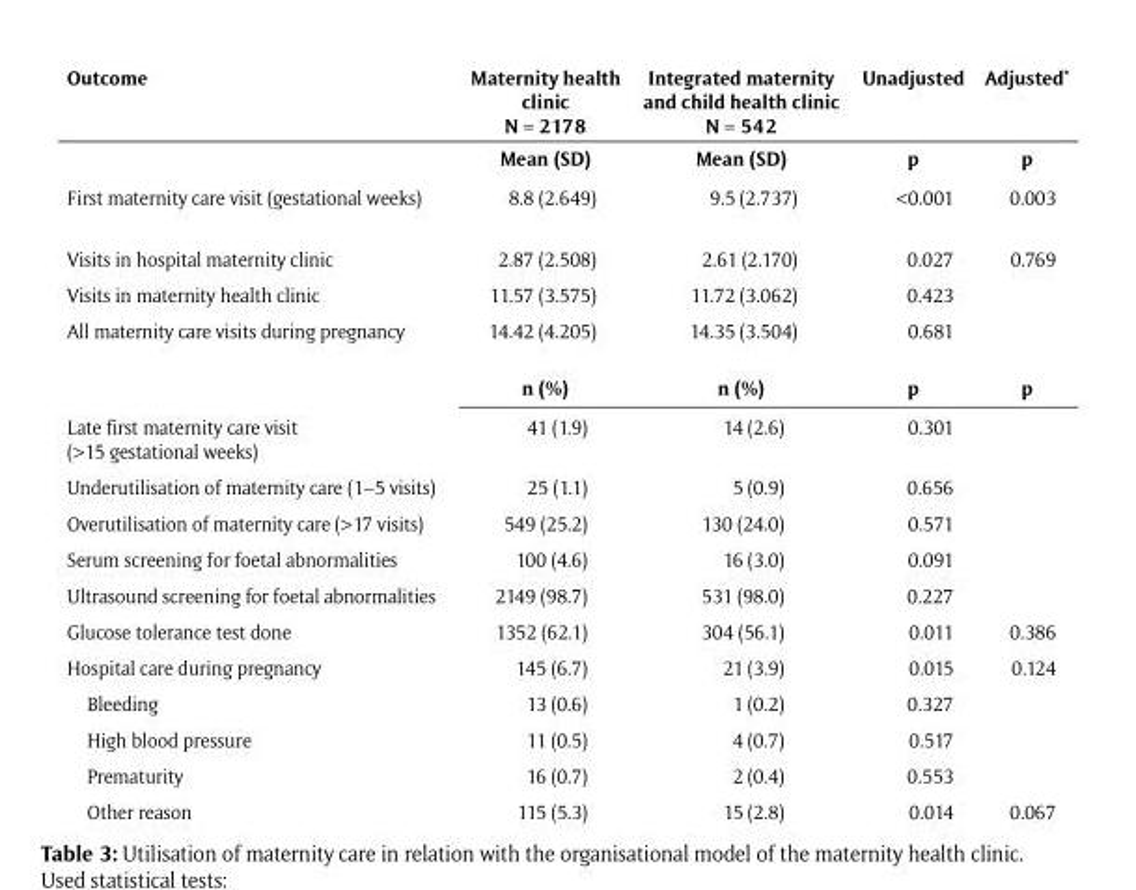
<table><thead><tr><td rowspan="2">Outcome</td><td rowspan="2">Maternity health clinic N = 2178 Mean (SD)</td><td rowspan="2">Integrated maternity and child health clinic N = 542 Mean (SD)</td><td rowspan="2">Unadjusted p</td><td rowspan="2">Adjusted* p</td></tr><tr></tr></thead><tbody><tr><td>First maternity care visit (gestational weeks)</td><td>8.8 (2.649)</td><td>9.5 (2.737)</td><td>&lt;0.001</td><td>0.003</td></tr><tr><td>Visits in hospital maternity clinic</td><td>2.87 (2.508)</td><td>2.61 (2.170)</td><td>0.027</td><td>0.769</td></tr><tr><td>Visits in maternity health clinic</td><td>11.57 (3.575)</td><td>11.72 (3.062)</td><td>0.423</td><td></td></tr><tr><td rowspan="2">All maternity care visits during pregnancy</td><td>14.42 (4.205)</td><td>14.35 (3.504)</td><td>0.681</td><td></td></tr><tr><td>n (%)</td><td>n (%)</td><td>p</td><td>p</td></tr><tr><td>Late first maternity care visit (&gt;15 gestational weeks)</td><td>41 (1.9)</td><td>14 (2.6)</td><td>0.301</td><td></td></tr><tr><td>Underutilisation of maternity care (1–5 visits)</td><td>25 (1.1)</td><td>5 (0.9)</td><td>0.656</td><td></td></tr><tr><td>Overutilisation of maternity care (&gt;17 visits)</td><td>549 (25.2)</td><td>130 (24.0)</td><td>0.571</td><td></td></tr><tr><td>Serum screening for foetal abnormalities</td><td>100 (4.6)</td><td>16 (3.0)</td><td>0.091</td><td></td></tr><tr><td>Ultrasound screening for foetal abnormalities</td><td>2149 (98.7)</td><td>531 (98.0)</td><td>0.227</td><td></td></tr><tr><td>Glucose tolerance test done</td><td>1352 (62.1)</td><td>304 (56.1)</td><td>0.011</td><td>0.386</td></tr><tr><td>Hospital care during pregnancy</td><td>145 (6.7)</td><td>21 (3.9)</td><td>0.015</td><td>0.124</td></tr><tr><td>Bleeding</td><td>13 (0.6)</td><td>1 (0.2)</td><td>0.327</td><td></td></tr><tr><td>High blood pressure</td><td>11 (0.5)</td><td>4 (0.7)</td><td>0.517</td><td></td></tr><tr><td>Prematurity</td><td>16 (0.7)</td><td>2 (0.4)</td><td>0.553</td><td></td></tr><tr><td>Other reason</td><td>115 (5.3)</td><td>15 (2.8)</td><td>0.014</td><td>0.067</td></tr></tbody></table>